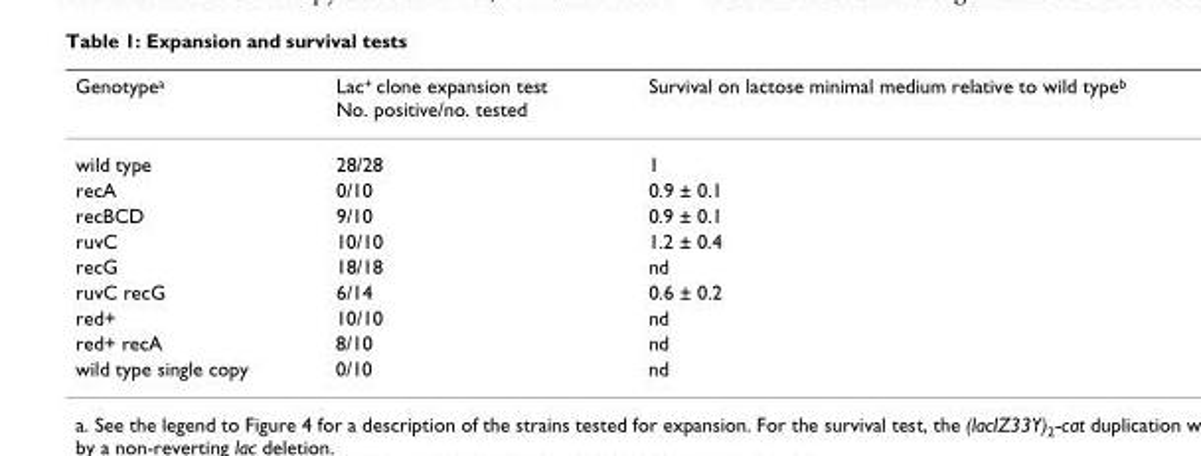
<table><thead><tr><td>Genotype<sup>a</sup></td><td>Lac<sup>+</sup> clone expansion test No. positive/no. tested</td><td>Survival on lactose minimal medium relative to wild type<sup>b</sup></td></tr></thead><tbody><tr><td>wild type</td><td>28/28</td><td>1</td></tr><tr><td>recA</td><td>0/10</td><td>0.9 ± 0.1</td></tr><tr><td>recBCD</td><td>9/10</td><td>0.9 ± 0.1</td></tr><tr><td>ruvC</td><td>10/10</td><td>1.2 ± 0.4</td></tr><tr><td>recG</td><td>18/18</td><td>nd</td></tr><tr><td>ruvC recG</td><td>6/14</td><td>0.6 ± 0.2</td></tr><tr><td>red+</td><td>10/10</td><td>nd</td></tr><tr><td>red+ recA</td><td>8/10</td><td>nd</td></tr><tr><td>wild type single copy</td><td>0/10</td><td>nd</td></tr></tbody></table>